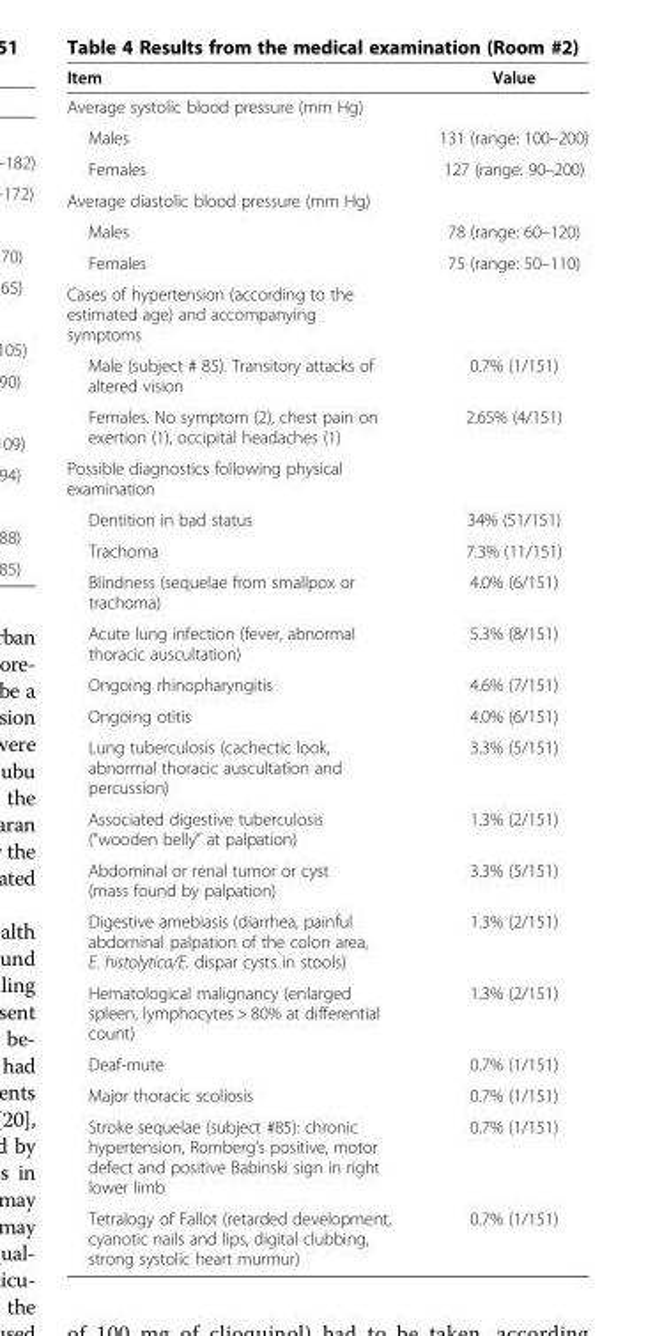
<table><thead><tr><td>Item</td><td>Value</td></tr></thead><tbody><tr><td colspan="2">Average systolic blood pressure (mm Hg)</td></tr><tr><td>Males</td><td>131 (range: 100–200)</td></tr><tr><td>Females</td><td>127 (range: 90–200)</td></tr><tr><td colspan="2">Average diastolic blood pressure (mm Hg)</td></tr><tr><td>Males</td><td>78 (range: 60–120)</td></tr><tr><td>Females</td><td>75 (range: 50–110)</td></tr><tr><td colspan="2">Cases of hypertension (according to the estimated age) and accompanying symptoms</td></tr><tr><td>Male (subject # 85). Transitory attacks of altered vision</td><td>0.7% (1/151)</td></tr><tr><td>Females. No symptom (2), chest pain on exertion (1), occipital headaches (1)</td><td>2.65% (4/151)</td></tr><tr><td colspan="2">Possible diagnostics following physical examination</td></tr><tr><td>Dentition in bad status</td><td>34% (51/151)</td></tr><tr><td>Trachoma</td><td>7.3% (11/151)</td></tr><tr><td>Blindness (sequelae from smallpox or trachoma)</td><td>4.0% (6/151)</td></tr><tr><td>Acute lung infection (fever, abnormal thoracic auscultation)</td><td>5.3% (8/151)</td></tr><tr><td>Ongoing rhinopharyngitis</td><td>4.6% (7/151)</td></tr><tr><td>Ongoing otitis</td><td>4.0% (6/151)</td></tr><tr><td>Lung tuberculosis (cachectic look, abnormal thoracic auscultation and percussion)</td><td>3.3% (5/151)</td></tr><tr><td>Associated digestive tuberculosis (“wooden belly” at palpation)</td><td>1.3% (2/151)</td></tr><tr><td>Abdominal or renal tumor or cyst (mass found by palpation)</td><td>3.3% (5/151)</td></tr><tr><td>Digestive amebiasis (diarrhea, painful abdominal palpation of the colon area, E. histolytica/E. dispar cysts in stools)</td><td>1.3% (2/151)</td></tr><tr><td>Hematological malignancy (enlarged spleen, lymphocytes &gt; 80% at differential count)</td><td>1.3% (2/151)</td></tr><tr><td>Deaf-mute</td><td>0.7% (1/151)</td></tr><tr><td>Major thoracic scoliosis</td><td>0.7% (1/151)</td></tr><tr><td>Stroke sequelae (subject #85): chronic hypertension, Romberg’s positive, motor defect and positive Babinski sign in right lower limb</td><td>0.7% (1/151)</td></tr><tr><td>Tetralogy of Fallot (retarded development, cyanotic nails and lips, digital clubbing, strong systolic heart murmur)</td><td>0.7% (1/151)</td></tr></tbody></table>